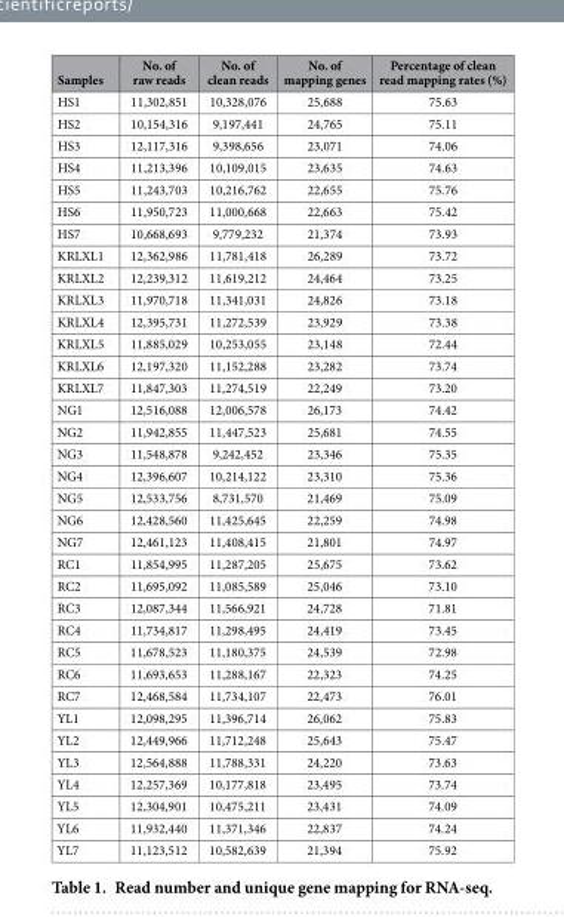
<table><thead><tr><td>Samples</td><td>No. of raw reads</td><td>No. of clean reads</td><td>No. of mapping genes</td><td>Percentage of clean read mapping rates (%)</td></tr></thead><tbody><tr><td>HS1</td><td>11,302,851</td><td>10,328,076</td><td>25,688</td><td>75.63</td></tr><tr><td>HS2</td><td>10,154,316</td><td>9,197,441</td><td>24,765</td><td>75.11</td></tr><tr><td>HS3</td><td>12,117,316</td><td>9,398,656</td><td>23,071</td><td>74.06</td></tr><tr><td>HS4</td><td>11,213,396</td><td>10,109,015</td><td>23,635</td><td>74.63</td></tr><tr><td>HS5</td><td>11,243,703</td><td>10,216,762</td><td>22,655</td><td>75.76</td></tr><tr><td>HS6</td><td>11,950,723</td><td>11,000,668</td><td>22,663</td><td>75.42</td></tr><tr><td>HS7</td><td>10,668,693</td><td>9,779,232</td><td>21,374</td><td>73.93</td></tr><tr><td>KRLXL1</td><td>12,362,986</td><td>11,781,418</td><td>26,289</td><td>73.72</td></tr><tr><td>KRLXL2</td><td>12,239,312</td><td>11,619,212</td><td>24,464</td><td>73.25</td></tr><tr><td>KRLXL3</td><td>11,970,718</td><td>11,341,031</td><td>24,826</td><td>73.18</td></tr><tr><td>KRLXL4</td><td>12,395,731</td><td>11,272,539</td><td>23,929</td><td>73.38</td></tr><tr><td>KRLXL5</td><td>11,885,029</td><td>10,253,055</td><td>23,148</td><td>72.44</td></tr><tr><td>KRLXL6</td><td>12,197,320</td><td>11,152,288</td><td>23,282</td><td>73.74</td></tr><tr><td>KRLXL7</td><td>11,847,303</td><td>11,274,519</td><td>22,249</td><td>73.20</td></tr><tr><td>NG1</td><td>12,516,088</td><td>12,006,578</td><td>26,173</td><td>74.42</td></tr><tr><td>NG2</td><td>11,942,855</td><td>11,447,523</td><td>25,681</td><td>74.55</td></tr><tr><td>NG3</td><td>11,548,878</td><td>9,242,452</td><td>23,346</td><td>75.35</td></tr><tr><td>NG4</td><td>12,396,607</td><td>10,214,122</td><td>23,310</td><td>75.36</td></tr><tr><td>NG5</td><td>12,533,756</td><td>8,731,570</td><td>21,469</td><td>75.09</td></tr><tr><td>NG6</td><td>12,428,560</td><td>11,425,645</td><td>22,259</td><td>74.98</td></tr><tr><td>NG7</td><td>12,461,123</td><td>11,408,415</td><td>21,801</td><td>74.97</td></tr><tr><td>RC1</td><td>11,854,995</td><td>11,287,205</td><td>25,675</td><td>73.62</td></tr><tr><td>RC2</td><td>11,695,092</td><td>11,085,589</td><td>25,046</td><td>73.10</td></tr><tr><td>RC3</td><td>12,087,344</td><td>11,566,921</td><td>24,728</td><td>71.81</td></tr><tr><td>RC4</td><td>11,734,817</td><td>11,298,495</td><td>24,419</td><td>73.45</td></tr><tr><td>RC5</td><td>11,678,523</td><td>11,180,375</td><td>24,539</td><td>72.98</td></tr><tr><td>RC6</td><td>11,693,653</td><td>11,288,167</td><td>22,323</td><td>74.25</td></tr><tr><td>RC7</td><td>12,468,584</td><td>11,734,107</td><td>22,473</td><td>76.01</td></tr><tr><td>YL1</td><td>12,098,295</td><td>11,396,714</td><td>26,062</td><td>75.83</td></tr><tr><td>YL2</td><td>12,449,966</td><td>11,712,248</td><td>25,643</td><td>75.47</td></tr><tr><td>YL3</td><td>12,564,888</td><td>11,788,331</td><td>24,220</td><td>73.63</td></tr><tr><td>YL4</td><td>12,257,369</td><td>10,177,818</td><td>23,495</td><td>73.74</td></tr><tr><td>YL5</td><td>12,304,901</td><td>10,475,211</td><td>23,431</td><td>74.09</td></tr><tr><td>YL6</td><td>11,932,440</td><td>11,371,346</td><td>22,837</td><td>74.24</td></tr><tr><td>YL7</td><td>11,123,512</td><td>10,582,639</td><td>21,394</td><td>75.92</td></tr></tbody></table>